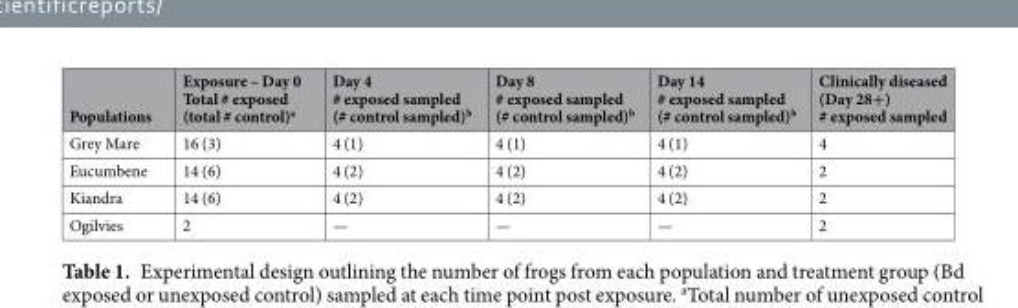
<table><thead><tr><td>Populations</td><td>Exposure – Day 0 Total # exposed (total # control)<sup>a</sup></td><td>Day 4 # exposed sampled (# control sampled)<sup>b</sup></td><td>Day 8 # exposed sampled (# control sampled)<sup>b</sup></td><td>Day 14 # exposed sampled (# control sampled)<sup>b</sup></td><td>Clinically diseased (Day 28+) # exposed sampled</td></tr></thead><tbody><tr><td>Grey Mare</td><td>16 (3)</td><td>4 (1)</td><td>4 (1)</td><td>4 (1)</td><td>4</td></tr><tr><td>Eucumbene</td><td>14 (6)</td><td>4 (2)</td><td>4 (2)</td><td>4 (2)</td><td>2</td></tr><tr><td>Kiandra</td><td>14 (6)</td><td>4 (2)</td><td>4 (2)</td><td>4 (2)</td><td>2</td></tr><tr><td>Ogilvies</td><td>2</td><td>—</td><td>—</td><td>—</td><td>2</td></tr></tbody></table>